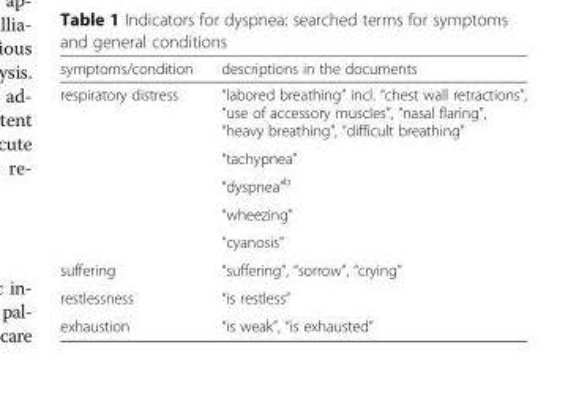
<table><thead><tr><td>symptoms/condition</td><td>descriptions in the documents</td></tr></thead><tbody><tr><td rowspan="5">respiratory distress</td><td>“labored breathing” incl. “chest wall retractions”, “use of accessory muscles”, “nasal flaring”, “heavy breathing”, “difficult breathing”</td></tr><tr><td>“tachypnea”</td></tr><tr><td>“dyspnea”<sup>b</sup></td></tr><tr><td>“wheezing”</td></tr><tr><td>“cyanosis”</td></tr><tr><td>suffering</td><td>“suffering”, “sorrow”, “crying”</td></tr><tr><td>restlessness</td><td>“is restless”</td></tr><tr><td>exhaustion</td><td>“is weak”, “is exhausted”</td></tr></tbody></table>